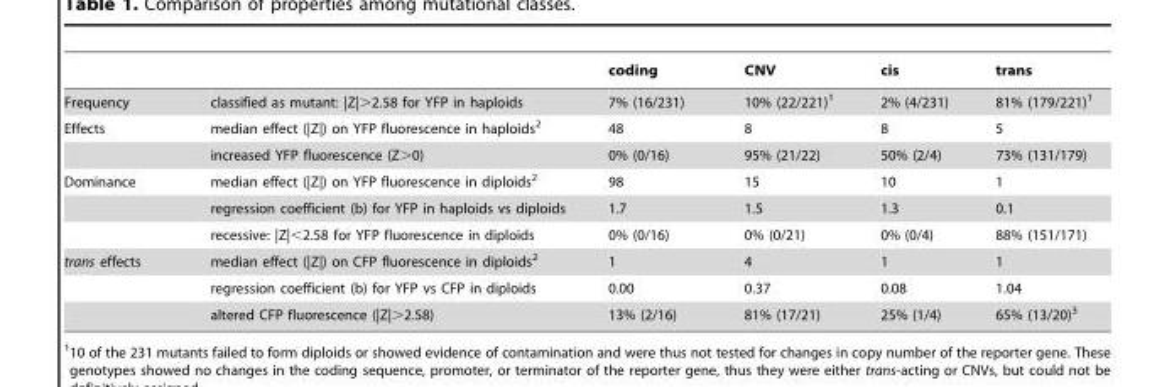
<table><thead><tr><td></td><td></td><td>coding</td><td>CNV</td><td>cis</td><td>trans</td></tr></thead><tbody><tr><td>Frequency</td><td>classified as mutant: |Z|&gt;2.58 for YFP in haploids</td><td>7% (16/231)</td><td>10% (22/221)<sup>1</sup></td><td>2% (4/231)</td><td>81% (179/221)<sup>1</sup></td></tr><tr><td rowspan="2">Effects</td><td>median effect (|Z|) on YFP fluorescence in haploids<sup>2</sup></td><td>48</td><td>8</td><td>8</td><td>5</td></tr><tr><td>increased YFP fluorescence (Z&gt;0)</td><td>0% (0/16)</td><td>95% (21/22)</td><td>50% (2/4)</td><td>73% (131/179)</td></tr><tr><td rowspan="3">Dominance</td><td>median effect (|Z|) on YFP fluorescence in diploids<sup>2</sup></td><td>98</td><td>15</td><td>10</td><td>1</td></tr><tr><td>regression coefficient (b) for YFP in haploids vs diploids</td><td>1.7</td><td>1.5</td><td>1.3</td><td>0.1</td></tr><tr><td>recessive: |Z|&lt;2.58 for YFP fluorescence in diploids</td><td>0% (0/16)</td><td>0% (0/21)</td><td>0% (0/4)</td><td>88% (151/171)</td></tr><tr><td rowspan="3">trans effects</td><td>median effect (|Z|) on CFP fluorescence in diploids<sup>2</sup></td><td>1</td><td>4</td><td>1</td><td>1</td></tr><tr><td>regression coefficient (b) for YFP vs CFP in diploids</td><td>0.00</td><td>0.37</td><td>0.08</td><td>1.04</td></tr><tr><td>altered CFP fluorescence (|Z|&gt;2.58)</td><td>13% (2/16)</td><td>81% (17/21)</td><td>25% (1/4)</td><td>65% (13/20)<sup>3</sup></td></tr></tbody></table>